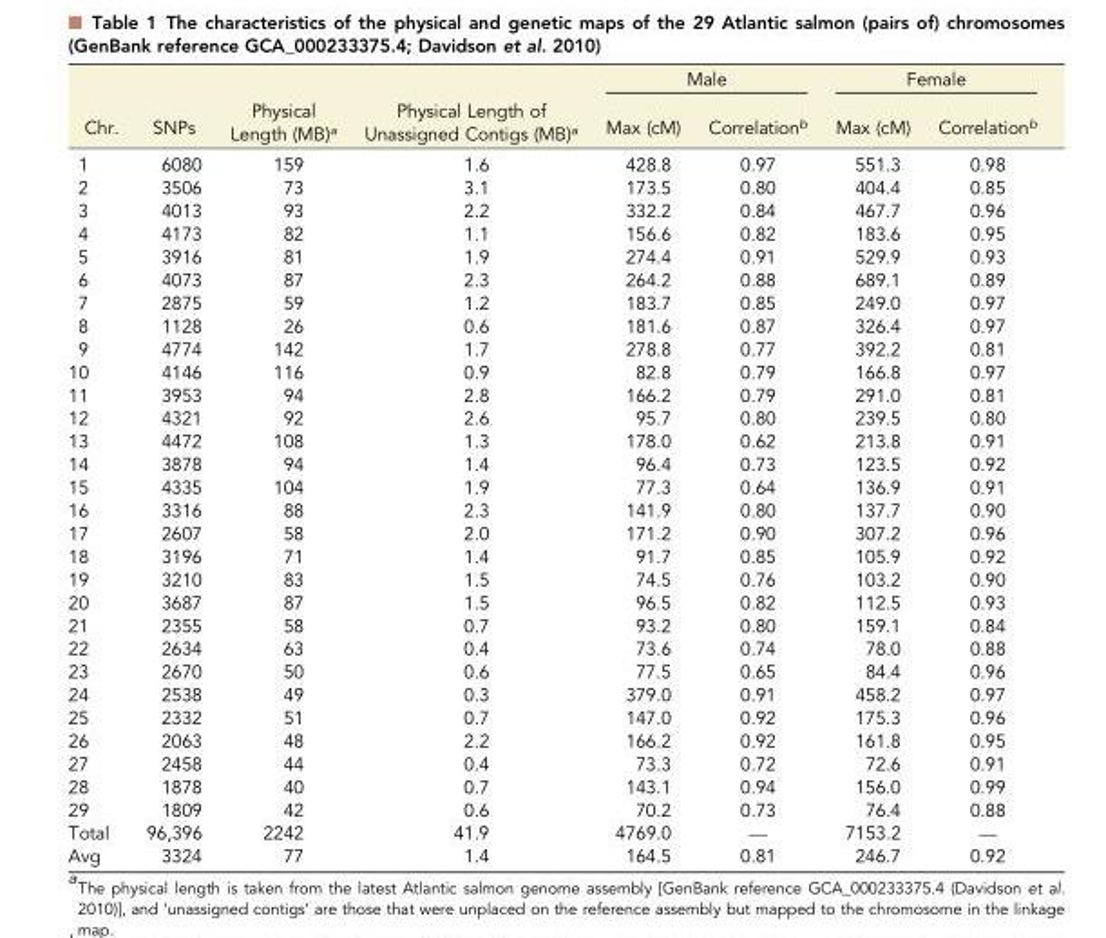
<table><thead><tr><td rowspan="2">Chr.</td><td rowspan="2">SNPs</td><td rowspan="2">Physical Length (MB)<sup>a</sup></td><td rowspan="2">Physical Length of Unassigned Contigs (MB)<sup>a</sup></td><td colspan="2">Male</td><td colspan="2">Female</td></tr><tr><td>Max (cM)</td><td>Correlation<sup>b</sup></td><td>Max (cM)</td><td>Correlation<sup>b</sup></td></tr></thead><tbody><tr><td>1</td><td>6080</td><td>159</td><td>1.6</td><td>428.8</td><td>0.97</td><td>551.3</td><td>0.98</td></tr><tr><td>2</td><td>3506</td><td>73</td><td>3.1</td><td>173.5</td><td>0.80</td><td>404.4</td><td>0.85</td></tr><tr><td>3</td><td>4013</td><td>93</td><td>2.2</td><td>332.2</td><td>0.84</td><td>467.7</td><td>0.96</td></tr><tr><td>4</td><td>4173</td><td>82</td><td>1.1</td><td>156.6</td><td>0.82</td><td>183.6</td><td>0.95</td></tr><tr><td>5</td><td>3916</td><td>81</td><td>1.9</td><td>274.4</td><td>0.91</td><td>529.9</td><td>0.93</td></tr><tr><td>6</td><td>4073</td><td>87</td><td>2.3</td><td>264.2</td><td>0.88</td><td>689.1</td><td>0.89</td></tr><tr><td>7</td><td>2875</td><td>59</td><td>1.2</td><td>183.7</td><td>0.85</td><td>249.0</td><td>0.97</td></tr><tr><td>8</td><td>1128</td><td>26</td><td>0.6</td><td>181.6</td><td>0.87</td><td>326.4</td><td>0.97</td></tr><tr><td>9</td><td>4774</td><td>142</td><td>1.7</td><td>278.8</td><td>0.77</td><td>392.2</td><td>0.81</td></tr><tr><td>10</td><td>4146</td><td>116</td><td>0.9</td><td>82.8</td><td>0.79</td><td>166.8</td><td>0.97</td></tr><tr><td>11</td><td>3953</td><td>94</td><td>2.8</td><td>166.2</td><td>0.79</td><td>291.0</td><td>0.81</td></tr><tr><td>12</td><td>4321</td><td>92</td><td>2.6</td><td>95.7</td><td>0.80</td><td>239.5</td><td>0.80</td></tr><tr><td>13</td><td>4472</td><td>108</td><td>1.3</td><td>178.0</td><td>0.62</td><td>213.8</td><td>0.91</td></tr><tr><td>14</td><td>3878</td><td>94</td><td>1.4</td><td>96.4</td><td>0.73</td><td>123.5</td><td>0.92</td></tr><tr><td>15</td><td>4335</td><td>104</td><td>1.9</td><td>77.3</td><td>0.64</td><td>136.9</td><td>0.91</td></tr><tr><td>16</td><td>3316</td><td>88</td><td>2.3</td><td>141.9</td><td>0.80</td><td>137.7</td><td>0.90</td></tr><tr><td>17</td><td>2607</td><td>58</td><td>2.0</td><td>171.2</td><td>0.90</td><td>307.2</td><td>0.96</td></tr><tr><td>18</td><td>3196</td><td>71</td><td>1.4</td><td>91.7</td><td>0.85</td><td>105.9</td><td>0.92</td></tr><tr><td>19</td><td>3210</td><td>83</td><td>1.5</td><td>74.5</td><td>0.76</td><td>103.2</td><td>0.90</td></tr><tr><td>20</td><td>3687</td><td>87</td><td>1.5</td><td>96.5</td><td>0.82</td><td>112.5</td><td>0.93</td></tr><tr><td>21</td><td>2355</td><td>58</td><td>0.7</td><td>93.2</td><td>0.80</td><td>159.1</td><td>0.84</td></tr><tr><td>22</td><td>2634</td><td>63</td><td>0.4</td><td>73.6</td><td>0.74</td><td>78.0</td><td>0.88</td></tr><tr><td>23</td><td>2670</td><td>50</td><td>0.6</td><td>77.5</td><td>0.65</td><td>84.4</td><td>0.96</td></tr><tr><td>24</td><td>2538</td><td>49</td><td>0.3</td><td>379.0</td><td>0.91</td><td>458.2</td><td>0.97</td></tr><tr><td>25</td><td>2332</td><td>51</td><td>0.7</td><td>147.0</td><td>0.92</td><td>175.3</td><td>0.96</td></tr><tr><td>26</td><td>2063</td><td>48</td><td>2.2</td><td>166.2</td><td>0.92</td><td>161.8</td><td>0.95</td></tr><tr><td>27</td><td>2458</td><td>44</td><td>0.4</td><td>73.3</td><td>0.72</td><td>72.6</td><td>0.91</td></tr><tr><td>28</td><td>1878</td><td>40</td><td>0.7</td><td>143.1</td><td>0.94</td><td>156.0</td><td>0.99</td></tr><tr><td>29</td><td>1809</td><td>42</td><td>0.6</td><td>70.2</td><td>0.73</td><td>76.4</td><td>0.88</td></tr><tr><td>Total</td><td>96,396</td><td>2242</td><td>41.9</td><td>4769.0</td><td>—</td><td>7153.2</td><td>—</td></tr><tr><td>Avg</td><td>3324</td><td>77</td><td>1.4</td><td>164.5</td><td>0.81</td><td>246.7</td><td>0.92</td></tr></tbody></table>